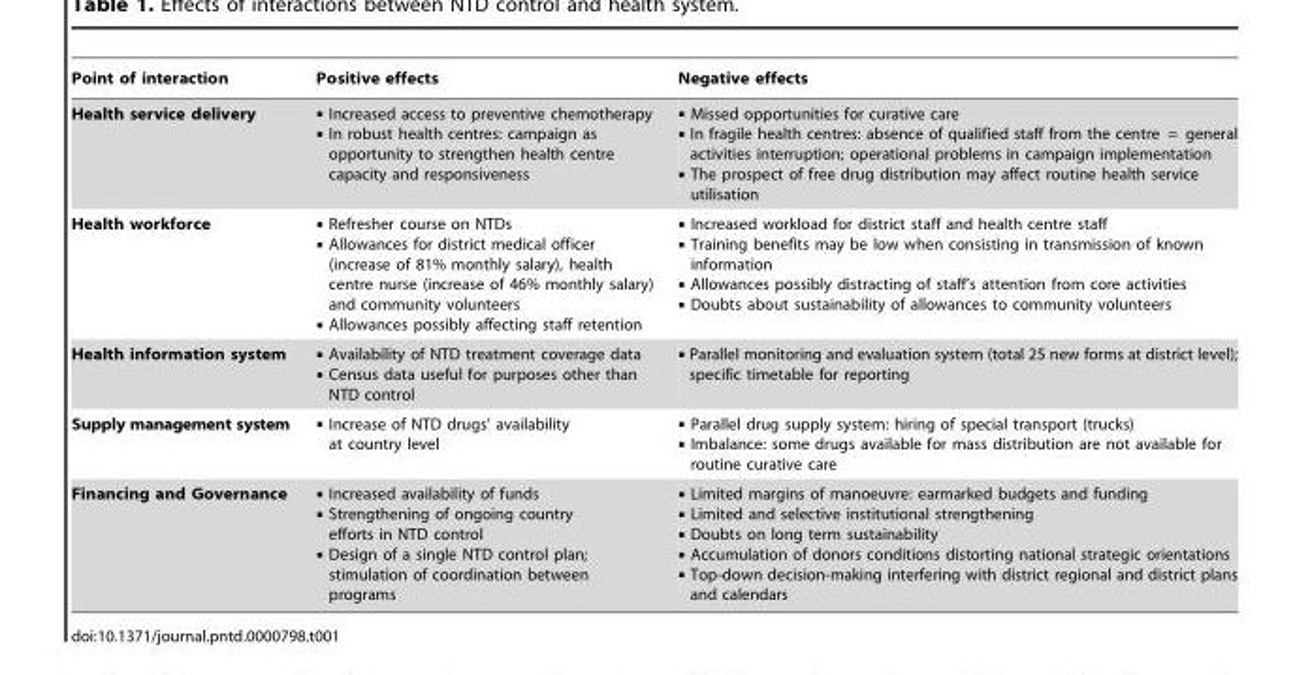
<table><thead><tr><td>Point of interaction</td><td>Positive effects</td><td>Negative effects</td></tr></thead><tbody><tr><td>Health service delivery</td><td>▪ Increased access to preventive chemotherapy ▪ In robust health centres: campaign as opportunity to strengthen health centre capacity and responsiveness</td><td>▪ Missed opportunities for curative care ▪ In fragile health centres: absence of qualified staff from the centre = general activities interruption; operational problems in campaign implementation ▪ The prospect of free drug distribution may affect routine health service utilisation</td></tr><tr><td>Health workforce</td><td>▪ Refresher course on NTDs ▪ Allowances for district medical officer (increase of 81% monthly salary), health centre nurse (increase of 46% monthly salary) and community volunteers ▪ Allowances possibly affecting staff retention</td><td>▪ Increased workload for district staff and health centre staff ▪ Training benefits may be low when consisting in transmission of known information ▪ Allowances possibly distracting of staff’s attention from core activities ▪ Doubts about sustainability of allowances to community volunteers</td></tr><tr><td>Health information system</td><td>▪ Availability of NTD treatment coverage data ▪ Census data useful for purposes other than NTD control</td><td>▪ Parallel monitoring and evaluation system (total 25 new forms at district level); specific timetable for reporting</td></tr><tr><td>Supply management system</td><td>▪ Increase of NTD drugs’ availability at country level</td><td>▪ Parallel drug supply system: hiring of special transport (trucks) ▪ Imbalance: some drugs available for mass distribution are not available for routine curative care</td></tr><tr><td>Financing and Governance</td><td>▪ Increased availability of funds ▪ Strengthening of ongoing country efforts in NTD control ▪ Design of a single NTD control plan; stimulation of coordination between programs</td><td>▪ Limited margins of manoeuvre: earmarked budgets and funding ▪ Limited and selective institutional strengthening ▪ Doubts on long term sustainability ▪ Accumulation of donors conditions distorting national strategic orientations ▪ Top-down decision-making interfering with district regional and district plans and calendars</td></tr></tbody></table>